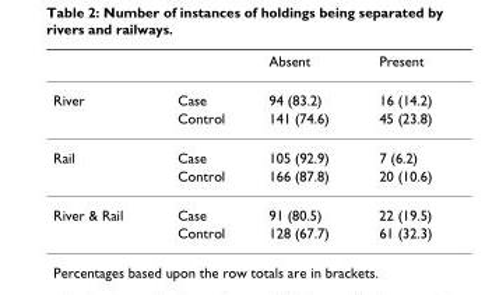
<table><thead><tr><td></td><td></td><td>Absent</td><td>Present</td></tr></thead><tbody><tr><td rowspan="2">River</td><td>Case</td><td>94 (83.2)</td><td>16 (14.2)</td></tr><tr><td>Control</td><td>141 (74.6)</td><td>45 (23.8)</td></tr><tr><td rowspan="2">Rail</td><td>Case</td><td>105 (92.9)</td><td>7 (6.2)</td></tr><tr><td>Control</td><td>166 (87.8)</td><td>20 (10.6)</td></tr><tr><td rowspan="2">River &amp; Rail</td><td>Case</td><td>91 (80.5)</td><td>22 (19.5)</td></tr><tr><td>Control</td><td>128 (67.7)</td><td>61 (32.3)</td></tr></tbody></table>